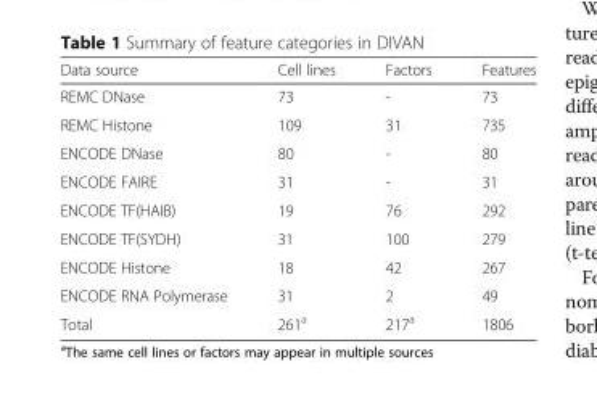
<table><thead><tr><td>Data source</td><td>Cell lines</td><td>Factors</td><td>Features</td></tr></thead><tbody><tr><td>REMC DNase</td><td>73</td><td>-</td><td>73</td></tr><tr><td>REMC Histone</td><td>109</td><td>31</td><td>735</td></tr><tr><td>ENCODE DNase</td><td>80</td><td>-</td><td>80</td></tr><tr><td>ENCODE FAIRE</td><td>31</td><td>-</td><td>31</td></tr><tr><td>ENCODE TF(HAIB)</td><td>19</td><td>76</td><td>292</td></tr><tr><td>ENCODE TF(SYDH)</td><td>31</td><td>100</td><td>279</td></tr><tr><td>ENCODE Histone</td><td>18</td><td>42</td><td>267</td></tr><tr><td>ENCODE RNA Polymerase</td><td>31</td><td>2</td><td>49</td></tr><tr><td>Total</td><td>261<sup>a</sup></td><td>217<sup>a</sup></td><td>1806</td></tr></tbody></table>